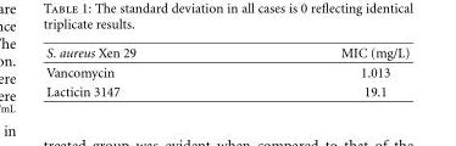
<table><thead><tr><td>S. aureus Xen 29</td><td>MIC (mg/L)</td></tr></thead><tbody><tr><td>Vancomycin</td><td>1.013</td></tr><tr><td>Lacticin 3147</td><td>19.1</td></tr></tbody></table>